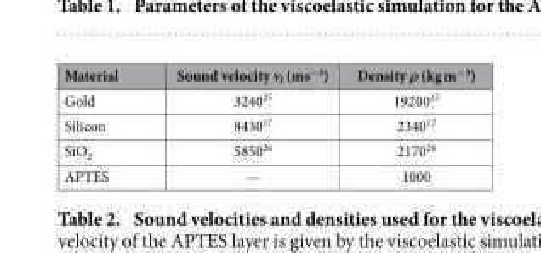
<table><thead><tr><td>Material</td><td>Sound velocity v<sub>l</sub> (ms<sup>−1</sup>)</td><td>Density ρ (kg m<sup>−3</sup>)</td></tr></thead><tbody><tr><td>Gold</td><td>3240<sup>25</sup></td><td>19200<sup>25</sup></td></tr><tr><td>Silicon</td><td>8430<sup>17</sup></td><td>2340<sup>17</sup></td></tr><tr><td>SiO<sub>2</sub></td><td>5850<sup>26</sup></td><td>2170<sup>26</sup></td></tr><tr><td>APTES</td><td>—</td><td>1000</td></tr></tbody></table>